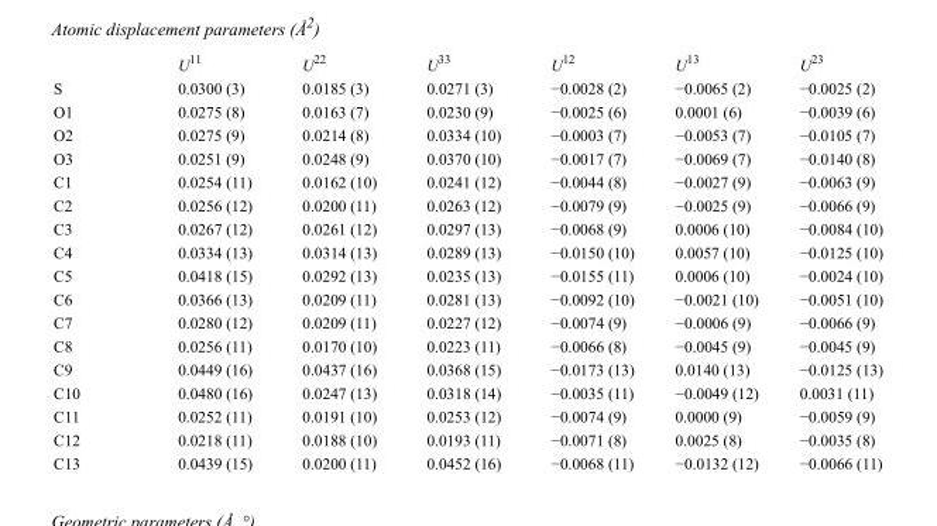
<table><thead><tr><td></td><td>U<sup>11</sup></td><td>U<sup>22</sup></td><td>U<sup>33</sup></td><td>U<sup>12</sup></td><td>U<sup>13</sup></td><td>U<sup>23</sup></td></tr></thead><tbody><tr><td>S</td><td>0.0300 (3)</td><td>0.0185 (3)</td><td>0.0271 (3)</td><td>−0.0028 (2)</td><td>−0.0065 (2)</td><td>−0.0025 (2)</td></tr><tr><td>O1</td><td>0.0275 (8)</td><td>0.0163 (7)</td><td>0.0230 (9)</td><td>−0.0025 (6)</td><td>0.0001 (6)</td><td>−0.0039 (6)</td></tr><tr><td>O2</td><td>0.0275 (9)</td><td>0.0214 (8)</td><td>0.0334 (10)</td><td>−0.0003 (7)</td><td>−0.0053 (7)</td><td>−0.0105 (7)</td></tr><tr><td>O3</td><td>0.0251 (9)</td><td>0.0248 (9)</td><td>0.0370 (10)</td><td>−0.0017 (7)</td><td>−0.0069 (7)</td><td>−0.0140 (8)</td></tr><tr><td>C1</td><td>0.0254 (11)</td><td>0.0162 (10)</td><td>0.0241 (12)</td><td>−0.0044 (8)</td><td>−0.0027 (9)</td><td>−0.0063 (9)</td></tr><tr><td>C2</td><td>0.0256 (12)</td><td>0.0200 (11)</td><td>0.0263 (12)</td><td>−0.0079 (9)</td><td>−0.0025 (9)</td><td>−0.0066 (9)</td></tr><tr><td>C3</td><td>0.0267 (12)</td><td>0.0261 (12)</td><td>0.0297 (13)</td><td>−0.0068 (9)</td><td>0.0006 (10)</td><td>−0.0084 (10)</td></tr><tr><td>C4</td><td>0.0334 (13)</td><td>0.0314 (13)</td><td>0.0289 (13)</td><td>−0.0150 (10)</td><td>0.0057 (10)</td><td>−0.0125 (10)</td></tr><tr><td>C5</td><td>0.0418 (15)</td><td>0.0292 (13)</td><td>0.0235 (13)</td><td>−0.0155 (11)</td><td>0.0006 (10)</td><td>−0.0024 (10)</td></tr><tr><td>C6</td><td>0.0366 (13)</td><td>0.0209 (11)</td><td>0.0281 (13)</td><td>−0.0092 (10)</td><td>−0.0021 (10)</td><td>−0.0051 (10)</td></tr><tr><td>C7</td><td>0.0280 (12)</td><td>0.0209 (11)</td><td>0.0227 (12)</td><td>−0.0074 (9)</td><td>−0.0006 (9)</td><td>−0.0066 (9)</td></tr><tr><td>C8</td><td>0.0256 (11)</td><td>0.0170 (10)</td><td>0.0223 (11)</td><td>−0.0066 (8)</td><td>−0.0045 (9)</td><td>−0.0045 (9)</td></tr><tr><td>C9</td><td>0.0449 (16)</td><td>0.0437 (16)</td><td>0.0368 (15)</td><td>−0.0173 (13)</td><td>0.0140 (13)</td><td>−0.0125 (13)</td></tr><tr><td>C10</td><td>0.0480 (16)</td><td>0.0247 (13)</td><td>0.0318 (14)</td><td>−0.0035 (11)</td><td>−0.0049 (12)</td><td>0.0031 (11)</td></tr><tr><td>C11</td><td>0.0252 (11)</td><td>0.0191 (10)</td><td>0.0253 (12)</td><td>−0.0074 (9)</td><td>0.0000 (9)</td><td>−0.0059 (9)</td></tr><tr><td>C12</td><td>0.0218 (11)</td><td>0.0188 (10)</td><td>0.0193 (11)</td><td>−0.0071 (8)</td><td>0.0025 (8)</td><td>−0.0035 (8)</td></tr><tr><td>C13</td><td>0.0439 (15)</td><td>0.0200 (11)</td><td>0.0452 (16)</td><td>−0.0068 (11)</td><td>−0.0132 (12)</td><td>−0.0066 (11)</td></tr></tbody></table>